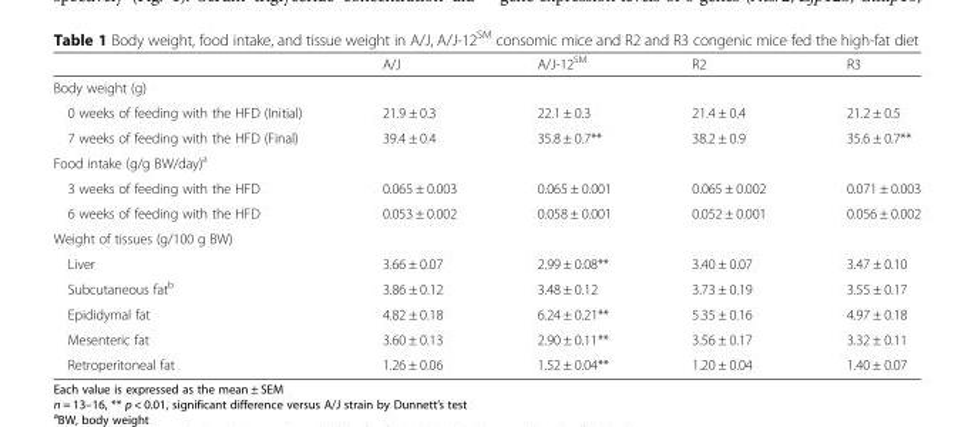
<table><thead><tr><td></td><td>A/J</td><td>A/J-12<sup>SM</sup></td><td>R2</td><td>R3</td></tr></thead><tbody><tr><td colspan="5">Body weight (g)</td></tr><tr><td>0 weeks of feeding with the HFD (Initial)</td><td>21.9 ± 0.3</td><td>22.1 ± 0.3</td><td>21.4 ± 0.4</td><td>21.2 ± 0.5</td></tr><tr><td>7 weeks of feeding with the HFD (Final)</td><td>39.4 ± 0.4</td><td>35.8 ± 0.7**</td><td>38.2 ± 0.9</td><td>35.6 ± 0.7**</td></tr><tr><td colspan="5">Food intake (g/g BW/day)<sup>a</sup></td></tr><tr><td>3 weeks of feeding with the HFD</td><td>0.065 ± 0.003</td><td>0.065 ± 0.001</td><td>0.065 ± 0.002</td><td>0.071 ± 0.003</td></tr><tr><td>6 weeks of feeding with the HFD</td><td>0.053 ± 0.002</td><td>0.058 ± 0.001</td><td>0.052 ± 0.001</td><td>0.056 ± 0.002</td></tr><tr><td colspan="5">Weight of tissues (g/100 g BW)</td></tr><tr><td>Liver</td><td>3.66 ± 0.07</td><td>2.99 ± 0.08**</td><td>3.40 ± 0.07</td><td>3.47 ± 0.10</td></tr><tr><td>Subcutaneous fat<sup>b</sup></td><td>3.86 ± 0.12</td><td>3.48 ± 0.12</td><td>3.73 ± 0.19</td><td>3.55 ± 0.17</td></tr><tr><td>Epididymal fat</td><td>4.82 ± 0.18</td><td>6.24 ± 0.21**</td><td>5.35 ± 0.16</td><td>4.97 ± 0.18</td></tr><tr><td>Mesenteric fat</td><td>3.60 ± 0.13</td><td>2.90 ± 0.11**</td><td>3.56 ± 0.17</td><td>3.32 ± 0.11</td></tr><tr><td>Retroperitoneal fat</td><td>1.26 ± 0.06</td><td>1.52 ± 0.04**</td><td>1.20 ± 0.04</td><td>1.40 ± 0.07</td></tr></tbody></table>